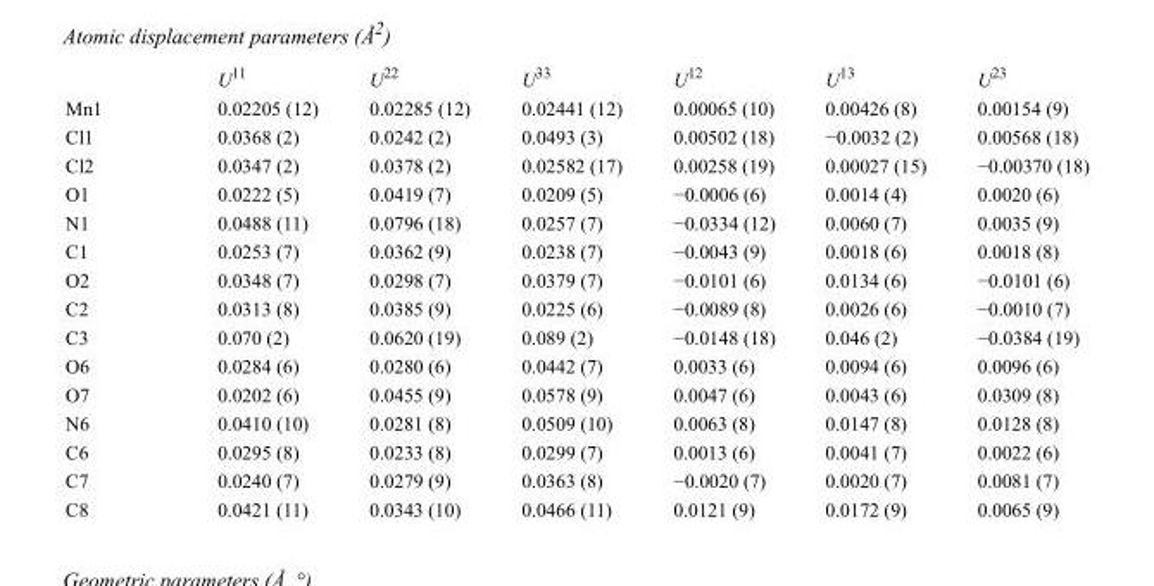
<table><thead><tr><td></td><td>U<sup>11</sup></td><td>U<sup>22</sup></td><td>U<sup>33</sup></td><td>U<sup>12</sup></td><td>U<sup>13</sup></td><td>U<sup>23</sup></td></tr></thead><tbody><tr><td>Mn1</td><td>0.02205 (12)</td><td>0.02285 (12)</td><td>0.02441 (12)</td><td>0.00065 (10)</td><td>0.00426 (8)</td><td>0.00154 (9)</td></tr><tr><td>Cl1</td><td>0.0368 (2)</td><td>0.0242 (2)</td><td>0.0493 (3)</td><td>0.00502 (18)</td><td>−0.0032 (2)</td><td>0.00568 (18)</td></tr><tr><td>Cl2</td><td>0.0347 (2)</td><td>0.0378 (2)</td><td>0.02582 (17)</td><td>0.00258 (19)</td><td>0.00027 (15)</td><td>−0.00370 (18)</td></tr><tr><td>O1</td><td>0.0222 (5)</td><td>0.0419 (7)</td><td>0.0209 (5)</td><td>−0.0006 (6)</td><td>0.0014 (4)</td><td>0.0020 (6)</td></tr><tr><td>N1</td><td>0.0488 (11)</td><td>0.0796 (18)</td><td>0.0257 (7)</td><td>−0.0334 (12)</td><td>0.0060 (7)</td><td>0.0035 (9)</td></tr><tr><td>C1</td><td>0.0253 (7)</td><td>0.0362 (9)</td><td>0.0238 (7)</td><td>−0.0043 (9)</td><td>0.0018 (6)</td><td>0.0018 (8)</td></tr><tr><td>O2</td><td>0.0348 (7)</td><td>0.0298 (7)</td><td>0.0379 (7)</td><td>−0.0101 (6)</td><td>0.0134 (6)</td><td>−0.0101 (6)</td></tr><tr><td>C2</td><td>0.0313 (8)</td><td>0.0385 (9)</td><td>0.0225 (6)</td><td>−0.0089 (8)</td><td>0.0026 (6)</td><td>−0.0010 (7)</td></tr><tr><td>C3</td><td>0.070 (2)</td><td>0.0620 (19)</td><td>0.089 (2)</td><td>−0.0148 (18)</td><td>0.046 (2)</td><td>−0.0384 (19)</td></tr><tr><td>O6</td><td>0.0284 (6)</td><td>0.0280 (6)</td><td>0.0442 (7)</td><td>0.0033 (6)</td><td>0.0094 (6)</td><td>0.0096 (6)</td></tr><tr><td>O7</td><td>0.0202 (6)</td><td>0.0455 (9)</td><td>0.0578 (9)</td><td>0.0047 (6)</td><td>0.0043 (6)</td><td>0.0309 (8)</td></tr><tr><td>N6</td><td>0.0410 (10)</td><td>0.0281 (8)</td><td>0.0509 (10)</td><td>0.0063 (8)</td><td>0.0147 (8)</td><td>0.0128 (8)</td></tr><tr><td>C6</td><td>0.0295 (8)</td><td>0.0233 (8)</td><td>0.0299 (7)</td><td>0.0013 (6)</td><td>0.0041 (7)</td><td>0.0022 (6)</td></tr><tr><td>C7</td><td>0.0240 (7)</td><td>0.0279 (9)</td><td>0.0363 (8)</td><td>−0.0020 (7)</td><td>0.0020 (7)</td><td>0.0081 (7)</td></tr><tr><td>C8</td><td>0.0421 (11)</td><td>0.0343 (10)</td><td>0.0466 (11)</td><td>0.0121 (9)</td><td>0.0172 (9)</td><td>0.0065 (9)</td></tr></tbody></table>